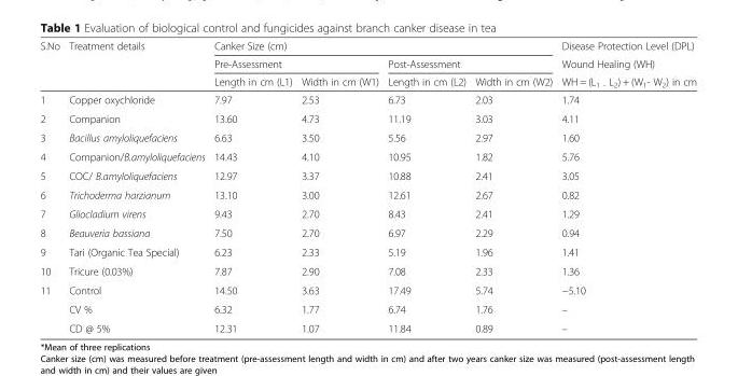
<table><thead><tr><td rowspan="3">S.No</td><td rowspan="3">Treatment details</td><td colspan="4">Canker Size (cm)</td><td rowspan="3">Disease Protection Level (DPL) Wound Healing (WH) WH = (L<sub>1 -</sub> L<sub>2</sub>) + (W<sub>1</sub>- W<sub>2</sub>) in cm</td></tr><tr><td colspan="2">Pre-Assessment</td><td colspan="2">Post-Assessment</td></tr><tr><td>Length in cm (L1)</td><td>Width in cm (W1)</td><td>Length in cm (L2)</td><td>Width in cm (W2)</td></tr></thead><tbody><tr><td>1</td><td>Copper oxychloride</td><td>7.97</td><td>2.53</td><td>6.73</td><td>2.03</td><td>1.74</td></tr><tr><td>2</td><td>Companion</td><td>13.60</td><td>4.73</td><td>11.19</td><td>3.03</td><td>4.11</td></tr><tr><td>3</td><td>Bacillus amyloliquefaciens</td><td>6.63</td><td>3.50</td><td>5.56</td><td>2.97</td><td>1.60</td></tr><tr><td>4</td><td>Companion/B.amyloliquefaciens</td><td>14.43</td><td>4.10</td><td>10.95</td><td>1.82</td><td>5.76</td></tr><tr><td>5</td><td>COC/ B.amyloliquefaciens</td><td>12.97</td><td>3.37</td><td>10.88</td><td>2.41</td><td>3.05</td></tr><tr><td>6</td><td>Trichoderma harzianum</td><td>13.10</td><td>3.00</td><td>12.61</td><td>2.67</td><td>0.82</td></tr><tr><td>7</td><td>Gliocladium virens</td><td>9.43</td><td>2.70</td><td>8.43</td><td>2.41</td><td>1.29</td></tr><tr><td>8</td><td>Beauveria bassiana</td><td>7.50</td><td>2.70</td><td>6.97</td><td>2.29</td><td>0.94</td></tr><tr><td>9</td><td>Tari (Organic Tea Special)</td><td>6.23</td><td>2.33</td><td>5.19</td><td>1.96</td><td>1.41</td></tr><tr><td>10</td><td>Tricure (0.03%)</td><td>7.87</td><td>2.90</td><td>7.08</td><td>2.33</td><td>1.36</td></tr><tr><td rowspan="3">11</td><td>Control</td><td>14.50</td><td>3.63</td><td>17.49</td><td>5.74</td><td>−5.10</td></tr><tr><td>CV %</td><td>6.32</td><td>1.77</td><td>6.74</td><td>1.76</td><td>–</td></tr><tr><td>CD @ 5%</td><td>12.31</td><td>1.07</td><td>11.84</td><td>0.89</td><td>–</td></tr></tbody></table>